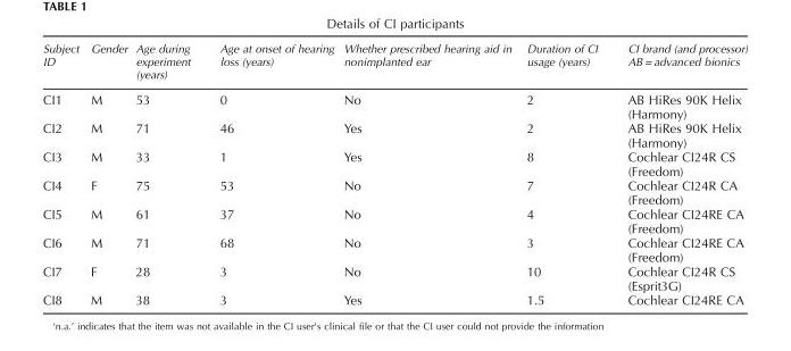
<table><thead><tr><td>Subject ID</td><td>Gender</td><td>Age during experiment (years)</td><td>Age at onset of hearing loss (years)</td><td>Whether prescribed hearing aid in nonimplanted ear</td><td>Duration of CI usage (years)</td><td>CI brand (and processor) AB = advanced bionics</td></tr></thead><tbody><tr><td>CI1</td><td>M</td><td>53</td><td>0</td><td>No</td><td>2</td><td>AB HiRes 90K Helix (Harmony)</td></tr><tr><td>CI2</td><td>M</td><td>71</td><td>46</td><td>Yes</td><td>2</td><td>AB HiRes 90K Helix (Harmony)</td></tr><tr><td>CI3</td><td>M</td><td>33</td><td>1</td><td>Yes</td><td>8</td><td>Cochlear CI24R CS (Freedom)</td></tr><tr><td>CI4</td><td>F</td><td>75</td><td>53</td><td>No</td><td>7</td><td>Cochlear CI24R CA (Freedom)</td></tr><tr><td>CI5</td><td>M</td><td>61</td><td>37</td><td>No</td><td>4</td><td>Cochlear CI24RE CA (Freedom)</td></tr><tr><td>CI6</td><td>M</td><td>71</td><td>68</td><td>No</td><td>3</td><td>Cochlear CI24RE CA (Freedom)</td></tr><tr><td>CI7</td><td>F</td><td>28</td><td>3</td><td>No</td><td>10</td><td>Cochlear CI24R CS (Esprit3G)</td></tr><tr><td>CI8</td><td>M</td><td>38</td><td>3</td><td>Yes</td><td>1.5</td><td>Cochlear CI24RE CA</td></tr></tbody></table>